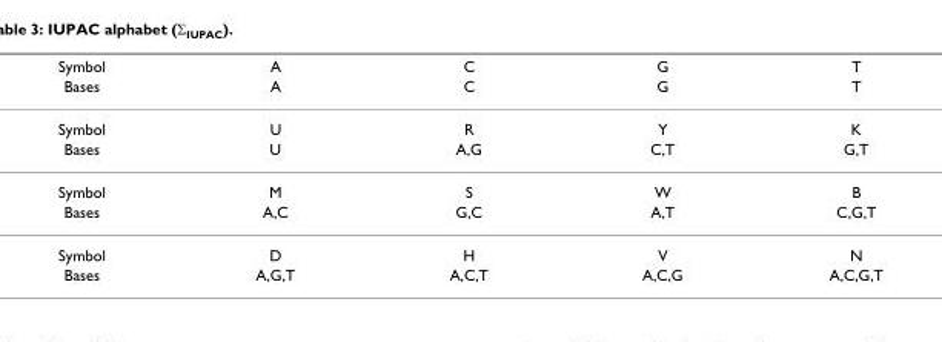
<table><thead><tr><td rowspan="2">Symbol Bases</td><td rowspan="2">A A</td><td rowspan="2">C C</td><td rowspan="2">G G</td><td rowspan="2">T T</td></tr><tr></tr></thead><tbody><tr><td>Symbol</td><td>U</td><td>R</td><td>Y</td><td>K</td></tr><tr><td>Bases</td><td>U</td><td>A,G</td><td>C,T</td><td>G,T</td></tr><tr><td>Symbol</td><td>M</td><td>S</td><td>W</td><td>B</td></tr><tr><td>Bases</td><td>A,C</td><td>G,C</td><td>A,T</td><td>C,G,T</td></tr><tr><td>Symbol</td><td>D</td><td>H</td><td>V</td><td>N</td></tr><tr><td>Bases</td><td>A,G,T</td><td>A,C,T</td><td>A,C,G</td><td>A,C,G,T</td></tr></tbody></table>